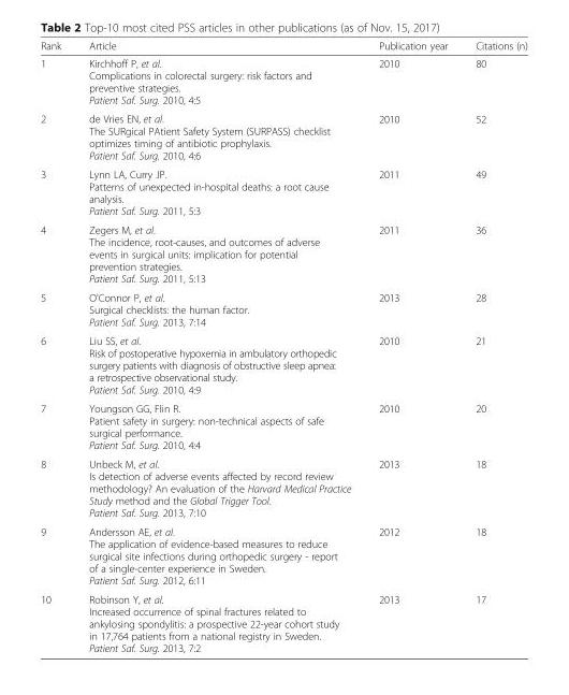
<table><thead><tr><td>Rank</td><td>Article</td><td>Publication year</td><td>Citations (n)</td></tr></thead><tbody><tr><td>1</td><td>Kirchhoff P, et al. Complications in colorectal surgery: risk factors and preventive strategies. Patient Saf. Surg. 2010, 4:5</td><td>2010</td><td>80</td></tr><tr><td>2</td><td>de Vries EN, et al. The SURgical PAtient Safety System (SURPASS) checklist optimizes timing of antibiotic prophylaxis. Patient Saf. Surg. 2010, 4:6</td><td>2010</td><td>52</td></tr><tr><td>3</td><td>Lynn LA, Curry JP. Patterns of unexpected in-hospital deaths: a root cause analysis. Patient Saf. Surg. 2011, 5:3</td><td>2011</td><td>49</td></tr><tr><td>4</td><td>Zegers M, et al. The incidence, root-causes, and outcomes of adverse events in surgical units: implication for potential prevention strategies. Patient Saf. Surg. 2011, 5:13</td><td>2011</td><td>36</td></tr><tr><td>5</td><td>O&#x27;Connor P, et al. Surgical checklists: the human factor. Patient Saf. Surg. 2013, 7:14</td><td>2013</td><td>28</td></tr><tr><td>6</td><td>Liu SS, et al. Risk of postoperative hypoxemia in ambulatory orthopedic surgery patients with diagnosis of obstructive sleep apnea: a retrospective observational study. Patient Saf. Surg. 2010, 4:9</td><td>2010</td><td>21</td></tr><tr><td>7</td><td>Youngson GG, Flin R. Patient safety in surgery: non-technical aspects of safe surgical performance. Patient Saf. Surg. 2010, 4:4</td><td>2010</td><td>20</td></tr><tr><td>8</td><td>Unbeck M, et al. Is detection of adverse events affected by record review methodology? An evaluation of the Harvard Medical Practice Study method and the Global Trigger Tool. Patient Saf. Surg. 2013, 7:10</td><td>2013</td><td>18</td></tr><tr><td>9</td><td>Andersson AE, et al. The application of evidence-based measures to reduce surgical site infections during orthopedic surgery - report of a single-center experience in Sweden. Patient Saf. Surg. 2012, 6:11</td><td>2012</td><td>18</td></tr><tr><td>10</td><td>Robinson Y, et al. Increased occurrence of spinal fractures related to ankylosing spondylitis: a prospective 22-year cohort study in 17,764 patients from a national registry in Sweden. Patient Saf. Surg. 2013, 7:2</td><td>2013</td><td>17</td></tr></tbody></table>